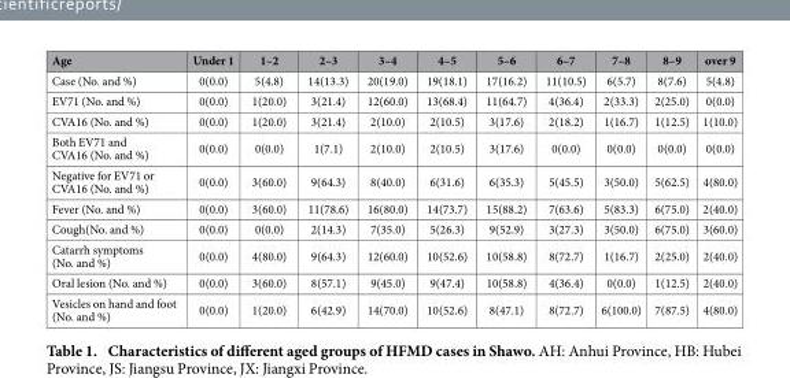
<table><thead><tr><td>Age</td><td>Under 1</td><td>1–2</td><td>2–3</td><td>3–4</td><td>4–5</td><td>5–6</td><td>6–7</td><td>7–8</td><td>8–9</td><td>over 9</td></tr></thead><tbody><tr><td>Case (No. and %)</td><td>0(0.0)</td><td>5(4.8)</td><td>14(13.3)</td><td>20(19.0)</td><td>19(18.1)</td><td>17(16.2)</td><td>11(10.5)</td><td>6(5.7)</td><td>8(7.6)</td><td>5(4.8)</td></tr><tr><td>EV71 (No. and %)</td><td>0(0.0)</td><td>1(20.0)</td><td>3(21.4)</td><td>12(60.0)</td><td>13(68.4)</td><td>11(64.7)</td><td>4(36.4)</td><td>2(33.3)</td><td>2(25.0)</td><td>0(0.0)</td></tr><tr><td>CVA16 (No. and %)</td><td>0(0.0)</td><td>1(20.0)</td><td>3(21.4)</td><td>2(10.0)</td><td>2(10.5)</td><td>3(17.6)</td><td>2(18.2)</td><td>1(16.7)</td><td>1(12.5)</td><td>1(10.0)</td></tr><tr><td>Both EV71 and CVA16 (No. and %)</td><td>0(0.0)</td><td>0(0.0)</td><td>1(7.1)</td><td>2(10.0)</td><td>2(10.5)</td><td>3(17.6)</td><td>0(0.0)</td><td>0(0.0)</td><td>0(0.0)</td><td>0(0.0)</td></tr><tr><td>Negative for EV71 or CVA16 (No. and %)</td><td>0(0.0)</td><td>3(60.0)</td><td>9(64.3)</td><td>8(40.0)</td><td>6(31.6)</td><td>6(35.3)</td><td>5(45.5)</td><td>3(50.0)</td><td>5(62.5)</td><td>4(80.0)</td></tr><tr><td>Fever (No. and %)</td><td>0(0.0)</td><td>3(60.0)</td><td>11(78.6)</td><td>16(80.0)</td><td>14(73.7)</td><td>15(88.2)</td><td>7(63.6)</td><td>5(83.3)</td><td>6(75.0)</td><td>2(40.0)</td></tr><tr><td>Cough(No. and %)</td><td>0(0.0)</td><td>0(0.0)</td><td>2(14.3)</td><td>7(35.0)</td><td>5(26.3)</td><td>9(52.9)</td><td>3(27.3)</td><td>3(50.0)</td><td>6(75.0)</td><td>3(60.0)</td></tr><tr><td>Catarrh symptoms (No. and %)</td><td>0(0.0)</td><td>4(80.0)</td><td>9(64.3)</td><td>12(60.0)</td><td>10(52.6)</td><td>10(58.8)</td><td>8(72.7)</td><td>1(16.7)</td><td>2(25.0)</td><td>2(40.0)</td></tr><tr><td>Oral lesion (No. and %)</td><td>0(0.0)</td><td>3(60.0)</td><td>8(57.1)</td><td>9(45.0)</td><td>9(47.4)</td><td>10(58.8)</td><td>4(36.4)</td><td>0(0.0)</td><td>1(12.5)</td><td>2(40.0)</td></tr><tr><td>Vesicles on hand and foot (No. and %)</td><td>0(0.0)</td><td>1(20.0)</td><td>6(42.9)</td><td>14(70.0)</td><td>10(52.6)</td><td>8(47.1)</td><td>8(72.7)</td><td>6(100.0)</td><td>7(87.5)</td><td>4(80.0)</td></tr></tbody></table>